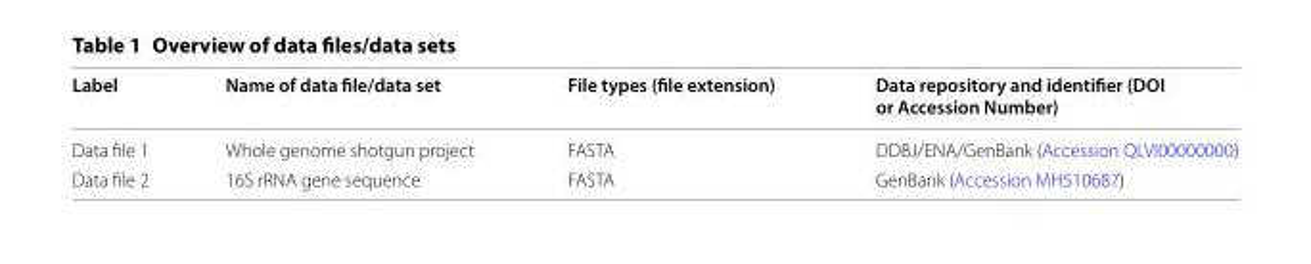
<table><thead><tr><td>Label</td><td>Name of data file/data set</td><td>File types (file extension)</td><td>Data repository and identifier (DOI or Accession Number)</td></tr></thead><tbody><tr><td>Data file 1</td><td>Whole genome shotgun project</td><td>FASTA</td><td>DDBJ/ENA/GenBank (Acces sion QLVI0 00000 00)</td></tr><tr><td>Data file 2</td><td>16S rRNA gene sequence</td><td>FASTA</td><td>GenBank (Acces sion MH510 687)</td></tr></tbody></table>